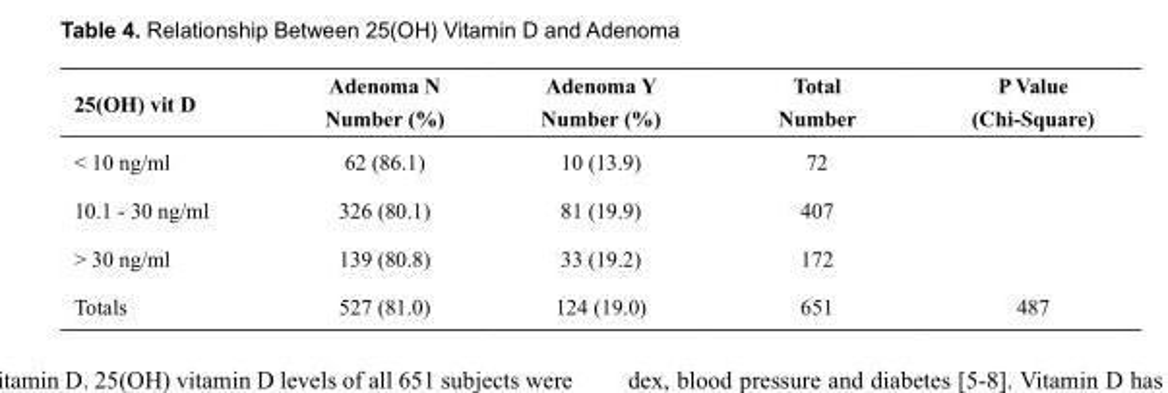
<table><thead><tr><td rowspan="2">25(OH) vit D</td><td rowspan="2">Adenoma N Number (%)</td><td rowspan="2">Adenoma Y Number (%)</td><td rowspan="2">Total Number</td><td rowspan="2">P Value (Chi-Square)</td></tr><tr></tr></thead><tbody><tr><td>&lt; 10 ng/ml</td><td>62 (86.1)</td><td>10 (13.9)</td><td>72</td><td></td></tr><tr><td>10.1 - 30 ng/ml</td><td>326 (80.1)</td><td>81 (19.9)</td><td>407</td><td></td></tr><tr><td>&gt; 30 ng/ml</td><td>139 (80.8)</td><td>33 (19.2)</td><td>172</td><td></td></tr><tr><td>Totals</td><td>527 (81.0)</td><td>124 (19.0)</td><td>651</td><td>487</td></tr></tbody></table>